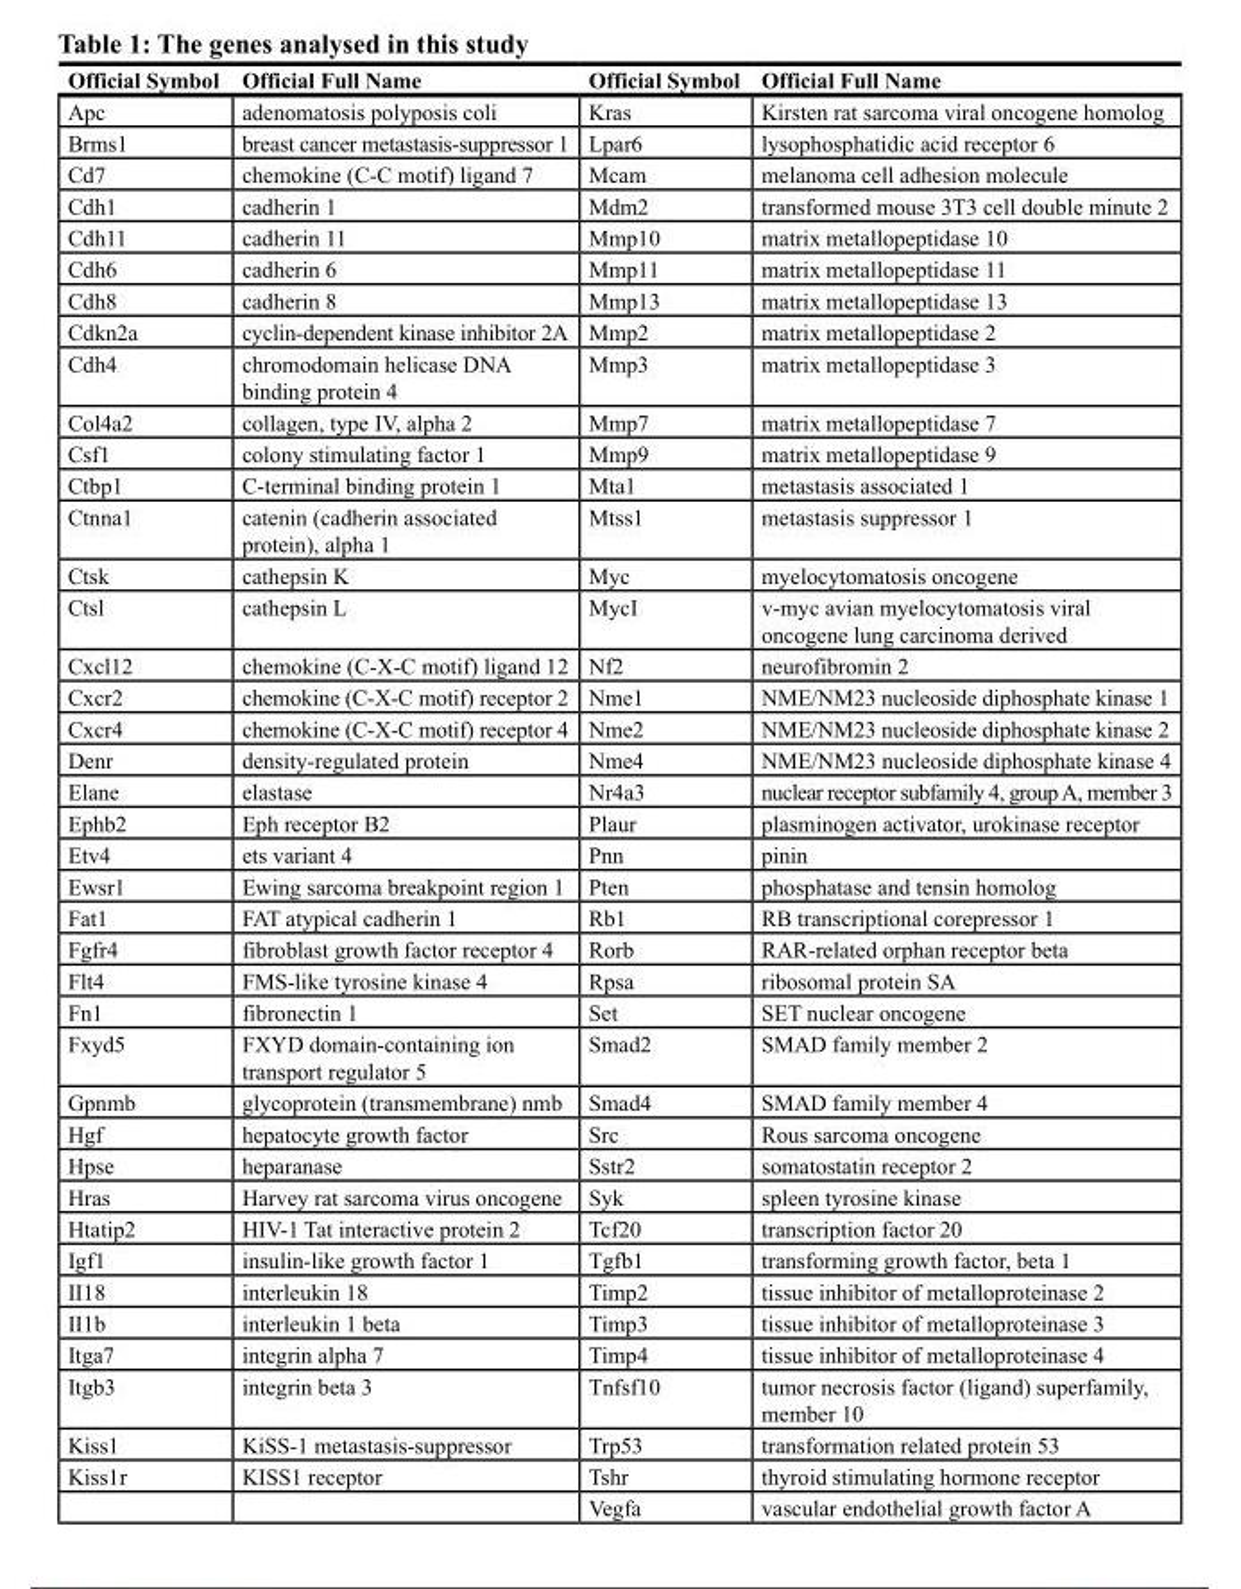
<table><thead><tr><td>Official Symbol</td><td>Official Full Name</td><td>Official Symbol</td><td>Official Full Name</td></tr></thead><tbody><tr><td>Apc</td><td>adenomatosis polyposis coli</td><td>Kras</td><td>Kirsten rat sarcoma viral oncogene homolog</td></tr><tr><td>Brms1</td><td>breast cancer metastasis-suppressor 1</td><td>Lpar6</td><td>lysophosphatidic acid receptor 6</td></tr><tr><td>Cd7</td><td>chemokine (C-C motif) ligand 7</td><td>Mcam</td><td>melanoma cell adhesion molecule</td></tr><tr><td>Cdh1</td><td>cadherin 1</td><td>Mdm2</td><td>transformed mouse 3T3 cell double minute 2</td></tr><tr><td>Cdh11</td><td>cadherin 11</td><td>Mmp10</td><td>matrix metallopeptidase 10</td></tr><tr><td>Cdh6</td><td>cadherin 6</td><td>Mmp11</td><td>matrix metallopeptidase 11</td></tr><tr><td>Cdh8</td><td>cadherin 8</td><td>Mmp13</td><td>matrix metallopeptidase 13</td></tr><tr><td>Cdkn2a</td><td>cyclin-dependent kinase inhibitor 2A</td><td>Mmp2</td><td>matrix metallopeptidase 2</td></tr><tr><td>Cdh4</td><td>chromodomain helicase DNA binding protein 4</td><td>Mmp3</td><td>matrix metallopeptidase 3</td></tr><tr><td>Col4a2</td><td>collagen, type IV, alpha 2</td><td>Mmp7</td><td>matrix metallopeptidase 7</td></tr><tr><td>Csf1</td><td>colony stimulating factor 1</td><td>Mmp9</td><td>matrix metallopeptidase 9</td></tr><tr><td>Ctbp1</td><td>C-terminal binding protein 1</td><td>Mta1</td><td>metastasis associated 1</td></tr><tr><td>Ctnna1</td><td>catenin (cadherin associated protein), alpha 1</td><td>Mtss1</td><td>metastasis suppressor 1</td></tr><tr><td>Ctsk</td><td>cathepsin K</td><td>Myc</td><td>myelocytomatosis oncogene</td></tr><tr><td>Ctsl</td><td>cathepsin L</td><td>MycI</td><td>v-myc avian myelocytomatosis viral oncogene lung carcinoma derived</td></tr><tr><td>Cxcl12</td><td>chemokine (C-X-C motif) ligand 12</td><td>Nf2</td><td>neurofibromin 2</td></tr><tr><td>Cxcr2</td><td>chemokine (C-X-C motif) receptor 2</td><td>Nme1</td><td>NME/NM23 nucleoside diphosphate kinase 1</td></tr><tr><td>Cxcr4</td><td>chemokine (C-X-C motif) receptor 4</td><td>Nme2</td><td>NME/NM23 nucleoside diphosphate kinase 2</td></tr><tr><td>Denr</td><td>density-regulated protein</td><td>Nme4</td><td>NME/NM23 nucleoside diphosphate kinase 4</td></tr><tr><td>Elane</td><td>elastase</td><td>Nr4a3</td><td>nuclear receptor subfamily 4, group A, member 3</td></tr><tr><td>Ephb2</td><td>Eph receptor B2</td><td>Plaur</td><td>plasminogen activator, urokinase receptor</td></tr><tr><td>Etv4</td><td>ets variant 4</td><td>Pnn</td><td>pinin</td></tr><tr><td>Ewsr1</td><td>Ewing sarcoma breakpoint region 1</td><td>Pten</td><td>phosphatase and tensin homolog</td></tr><tr><td>Fat1</td><td>FAT atypical cadherin 1</td><td>Rb1</td><td>RB transcriptional corepressor 1</td></tr><tr><td>Fgfr4</td><td>fibroblast growth factor receptor 4</td><td>Rorb</td><td>RAR-related orphan receptor beta</td></tr><tr><td>Flt4</td><td>FMS-like tyrosine kinase 4</td><td>Rpsa</td><td>ribosomal protein SA</td></tr><tr><td>Fn1</td><td>fibronectin 1</td><td>Set</td><td>SET nuclear oncogene</td></tr><tr><td>Fxyd5</td><td>FXYD domain-containing ion transport regulator 5</td><td>Smad2</td><td>SMAD family member 2</td></tr><tr><td>Gpnmb</td><td>glycoprotein (transmembrane) nmb</td><td>Smad4</td><td>SMAD family member 4</td></tr><tr><td>Hgf</td><td>hepatocyte growth factor</td><td>Src</td><td>Rous sarcoma oncogene</td></tr><tr><td>Hpse</td><td>heparanase</td><td>Sstr2</td><td>somatostatin receptor 2</td></tr><tr><td>Hras</td><td>Harvey rat sarcoma virus oncogene</td><td>Syk</td><td>spleen tyrosine kinase</td></tr><tr><td>Htatip2</td><td>HIV-1 Tat interactive protein 2</td><td>Tcf20</td><td>transcription factor 20</td></tr><tr><td>Igf1</td><td>insulin-like growth factor 1</td><td>Tgfb1</td><td>transforming growth factor, beta 1</td></tr><tr><td>II18</td><td>interleukin 18</td><td>Timp2</td><td>tissue inhibitor of metalloproteinase 2</td></tr><tr><td>II1b</td><td>interleukin 1 beta</td><td>Timp3</td><td>tissue inhibitor of metalloproteinase 3</td></tr><tr><td>Itga7</td><td>integrin alpha 7</td><td>Timp4</td><td>tissue inhibitor of metalloproteinase 4</td></tr><tr><td>Itgb3</td><td>integrin beta 3</td><td>Tnfsf10</td><td>tumor necrosis factor (ligand) superfamily, member 10</td></tr><tr><td>Kiss1</td><td>KiSS-1 metastasis-suppressor</td><td>Trp53</td><td>transformation related protein 53</td></tr><tr><td rowspan="2">Kiss1r</td><td>KISS1 receptor</td><td>Tshr</td><td>thyroid stimulating hormone receptor</td></tr><tr><td></td><td>Vegfa</td><td>vascular endothelial growth factor A</td></tr></tbody></table>